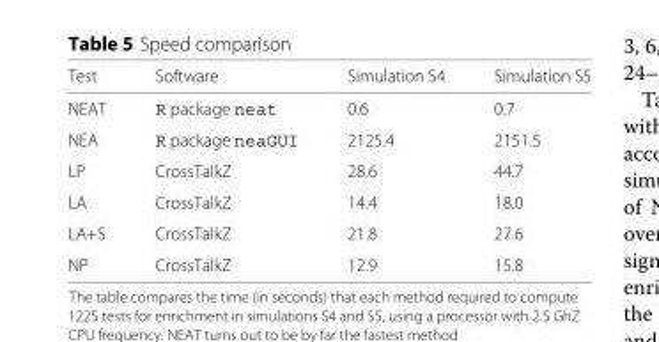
<table><thead><tr><td>Test</td><td>Software</td><td>Simulation S4</td><td>Simulation S5</td></tr></thead><tbody><tr><td>NEAT</td><td>R package neat</td><td>0.6</td><td>0.7</td></tr><tr><td>NEA</td><td>R package neaGUI</td><td>2125.4</td><td>2151.5</td></tr><tr><td>LP</td><td>CrossTalkZ</td><td>28.6</td><td>44.7</td></tr><tr><td>LA</td><td>CrossTalkZ</td><td>14.4</td><td>18.0</td></tr><tr><td>LA+S</td><td>CrossTalkZ</td><td>21.8</td><td>27.6</td></tr><tr><td>NP</td><td>CrossTalkZ</td><td>12.9</td><td>15.8</td></tr></tbody></table>